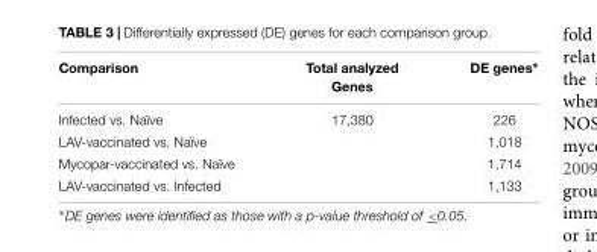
<table><thead><tr><td>Comparison</td><td>Total analyzed Genes</td><td>DE genes∗</td></tr></thead><tbody><tr><td>Infected vs. Naïve</td><td>17,380</td><td>226</td></tr><tr><td>LAV-vaccinated vs. Naïve</td><td></td><td>1,018</td></tr><tr><td>Mycopar-vaccinated vs. Naïve</td><td></td><td>1,714</td></tr><tr><td>LAV-vaccinated vs. Infected</td><td></td><td>1,133</td></tr></tbody></table>